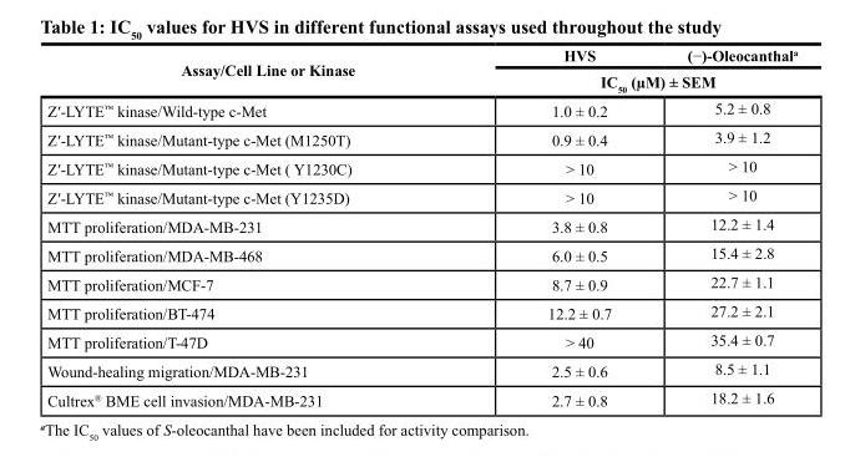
<table><thead><tr><td rowspan="2">Assay/Cell Line or Kinase</td><td>HVS</td><td>(−)-Oleocanthal<sup>a</sup></td></tr><tr><td colspan="2">IC<sub>50</sub> (µM) ± SEM</td></tr></thead><tbody><tr><td>Z′-LYTE<sup>™</sup> kinase/Wild-type c-Met</td><td>1.0 ± 0.2</td><td>5.2 ± 0.8</td></tr><tr><td>Z′-LYTE<sup>™</sup> kinase/Mutant-type c-Met (M1250T)</td><td>0.9 ± 0.4</td><td>3.9 ± 1.2</td></tr><tr><td>Z′-LYTE<sup>™</sup> kinase/Mutant-type c-Met ( Y1230C)</td><td>&gt; 10</td><td>&gt; 10</td></tr><tr><td>Z′-LYTE<sup>™</sup> kinase/Mutant-type c-Met (Y1235D)</td><td>&gt; 10</td><td>&gt; 10</td></tr><tr><td>MTT proliferation/MDA-MB-231</td><td>3.8 ± 0.8</td><td>12.2 ± 1.4</td></tr><tr><td>MTT proliferation/MDA-MB-468</td><td>6.0 ± 0.5</td><td>15.4 ± 2.8</td></tr><tr><td>MTT proliferation/MCF-7</td><td>8.7 ± 0.9</td><td>22.7 ± 1.1</td></tr><tr><td>MTT proliferation/BT-474</td><td>12.2 ± 0.7</td><td>27.2 ± 2.1</td></tr><tr><td>MTT proliferation/T-47D</td><td>&gt; 40</td><td>35.4 ± 0.7</td></tr><tr><td>Wound-healing migration/MDA-MB-231</td><td>2.5 ± 0.6</td><td>8.5 ± 1.1</td></tr><tr><td>Cultrex<sup>®</sup> BME cell invasion/MDA-MB-231</td><td>2.7 ± 0.8</td><td>18.2 ± 1.6</td></tr></tbody></table>